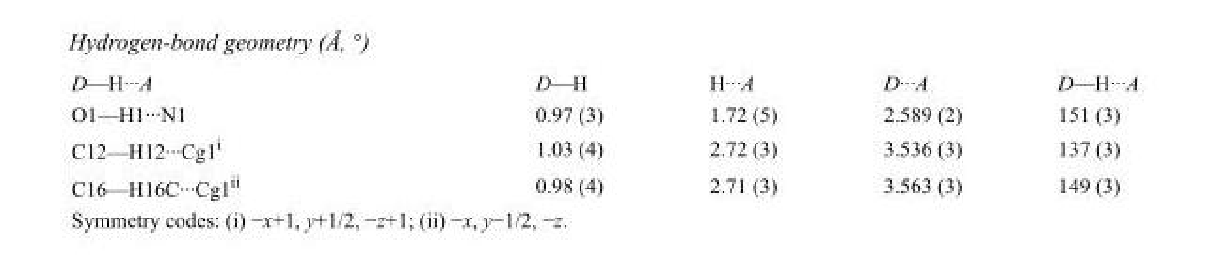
<table><tbody><tr><td>D—H···A</td><td>D—H</td><td>H···A</td><td>D···A</td><td>D—H···A</td></tr><tr><td>O1—H1···N1</td><td>0.97 (3)</td><td>1.72 (5)</td><td>2.589 (2)</td><td>151 (3)</td></tr><tr><td>C12—H12···Cg1<sup>i</sup></td><td>1.03 (4)</td><td>2.72 (3)</td><td>3.536 (3)</td><td>137 (3)</td></tr><tr><td>C16—H16C···Cg1<sup>ii</sup></td><td>0.98 (4)</td><td>2.71 (3)</td><td>3.563 (3)</td><td>149 (3)</td></tr></tbody></table>